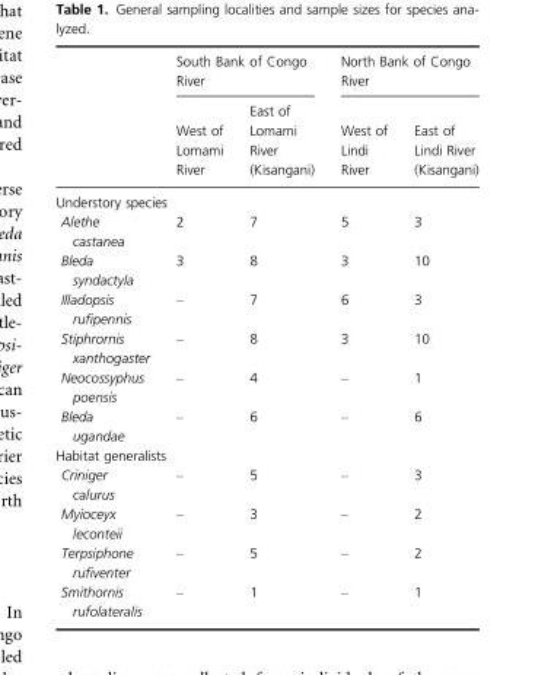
<table><thead><tr><td rowspan="2"></td><td colspan="2">South Bank of Congo River</td><td colspan="2">North Bank of Congo River</td></tr><tr><td>West of Lomami River</td><td>East of Lomami River (Kisangani)</td><td>West of Lindi River</td><td>East of Lindi River (Kisangani)</td></tr></thead><tbody><tr><td colspan="5">Understory species</td></tr><tr><td>Alethe castanea</td><td>2</td><td>7</td><td>5</td><td>3</td></tr><tr><td>Bleda syndactyla</td><td>3</td><td>8</td><td>3</td><td>10</td></tr><tr><td>Illadopsis rufipennis</td><td>–</td><td>7</td><td>6</td><td>3</td></tr><tr><td>Stiphrornis xanthogaster</td><td>–</td><td>8</td><td>3</td><td>10</td></tr><tr><td>Neocossyphus poensis</td><td>–</td><td>4</td><td>–</td><td>1</td></tr><tr><td>Bleda ugandae</td><td>–</td><td>6</td><td>–</td><td>6</td></tr><tr><td colspan="5">Habitat generalists</td></tr><tr><td>Criniger calurus</td><td>–</td><td>5</td><td>–</td><td>3</td></tr><tr><td>Myioceyx leconteii</td><td>–</td><td>3</td><td>–</td><td>2</td></tr><tr><td>Terpsiphone rufiventer</td><td>–</td><td>5</td><td>–</td><td>2</td></tr><tr><td>Smithornis rufolateralis</td><td>–</td><td>1</td><td>–</td><td>1</td></tr></tbody></table>